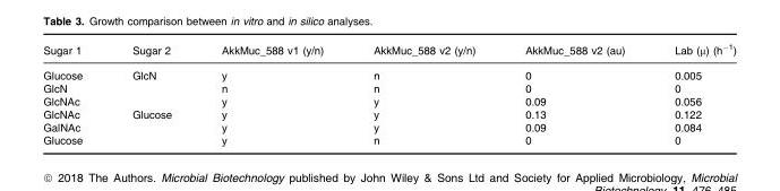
<table><thead><tr><td>Sugar 1</td><td>Sugar 2</td><td>AkkMuc_588 v1 (y/n)</td><td>AkkMuc_588 v2 (y/n)</td><td>AkkMuc_588 v2 (au)</td><td>Lab (μ) (h<sup>−1</sup>)</td></tr></thead><tbody><tr><td>Glucose</td><td>GlcN</td><td>y</td><td>n</td><td>0</td><td>0.005</td></tr><tr><td>GlcN</td><td></td><td>n</td><td>n</td><td>0</td><td>0</td></tr><tr><td>GlcNAc</td><td></td><td>y</td><td>y</td><td>0.09</td><td>0.056</td></tr><tr><td>GlcNAc</td><td>Glucose</td><td>y</td><td>y</td><td>0.13</td><td>0.122</td></tr><tr><td>GalNAc</td><td></td><td>y</td><td>y</td><td>0.09</td><td>0.084</td></tr><tr><td>Glucose</td><td></td><td>y</td><td>n</td><td>0</td><td>0</td></tr></tbody></table>